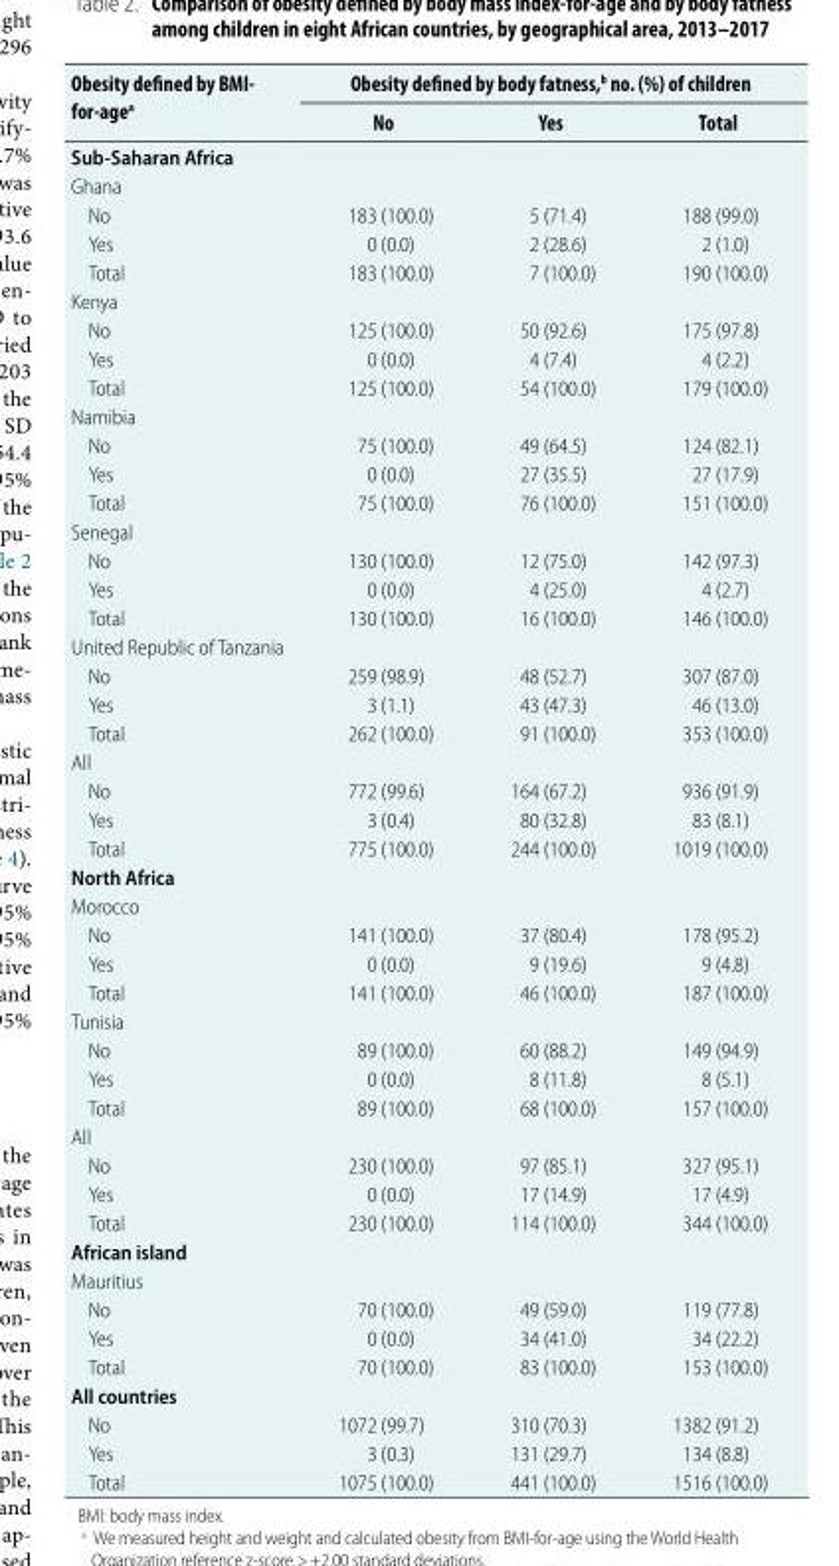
<table><thead><tr><td rowspan="2">Obesity defined by BMI- for-age<sup>a</sup></td><td colspan="3">Obesity defined by body fatness,<sup>b</sup> no. (%) of children</td></tr><tr><td>No</td><td>Yes</td><td>Total</td></tr></thead><tbody><tr><td colspan="4">Sub-Saharan Africa</td></tr><tr><td colspan="4">Ghana</td></tr><tr><td>No</td><td>183 (100.0)</td><td>5 (71.4)</td><td>188 (99.0)</td></tr><tr><td>Yes</td><td>0 (0.0)</td><td>2 (28.6)</td><td>2 (1.0)</td></tr><tr><td>Total</td><td>183 (100.0)</td><td>7 (100.0)</td><td>190 (100.0)</td></tr><tr><td colspan="4">Kenya</td></tr><tr><td>No</td><td>125 (100.0)</td><td>50 (92.6)</td><td>175 (97.8)</td></tr><tr><td>Yes</td><td>0 (0.0)</td><td>4 (7.4)</td><td>4 (2.2)</td></tr><tr><td>Total</td><td>125 (100.0)</td><td>54 (100.0)</td><td>179 (100.0)</td></tr><tr><td colspan="4">Namibia</td></tr><tr><td>No</td><td>75 (100.0)</td><td>49 (64.5)</td><td>124 (82.1)</td></tr><tr><td>Yes</td><td>0 (0.0)</td><td>27 (35.5)</td><td>27 (17.9)</td></tr><tr><td>Total</td><td>75 (100.0)</td><td>76 (100.0)</td><td>151 (100.0)</td></tr><tr><td colspan="4">Senegal</td></tr><tr><td>No</td><td>130 (100.0)</td><td>12 (75.0)</td><td>142 (97.3)</td></tr><tr><td>Yes</td><td>0 (0.0)</td><td>4 (25.0)</td><td>4 (2.7)</td></tr><tr><td>Total</td><td>130 (100.0)</td><td>16 (100.0)</td><td>146 (100.0)</td></tr><tr><td colspan="4">United Republic of Tanzania</td></tr><tr><td>No</td><td>259 (98.9)</td><td>48 (52.7)</td><td>307 (87.0)</td></tr><tr><td>Yes</td><td>3 (1.1)</td><td>43 (47.3)</td><td>46 (13.0)</td></tr><tr><td>Total</td><td>262 (100.0)</td><td>91 (100.0)</td><td>353 (100.0)</td></tr><tr><td colspan="4">All</td></tr><tr><td>No</td><td>772 (99.6)</td><td>164 (67.2)</td><td>936 (91.9)</td></tr><tr><td>Yes</td><td>3 (0.4)</td><td>80 (32.8)</td><td>83 (8.1)</td></tr><tr><td>Total</td><td>775 (100.0)</td><td>244 (100.0)</td><td>1019 (100.0)</td></tr><tr><td colspan="4">North Africa</td></tr><tr><td colspan="4">Morocco</td></tr><tr><td>No</td><td>141 (100.0)</td><td>37 (80.4)</td><td>178 (95.2)</td></tr><tr><td>Yes</td><td>0 (0.0)</td><td>9 (19.6)</td><td>9 (4.8)</td></tr><tr><td>Total</td><td>141 (100.0)</td><td>46 (100.0)</td><td>187 (100.0)</td></tr><tr><td colspan="4">Tunisia</td></tr><tr><td>No</td><td>89 (100.0)</td><td>60 (88.2)</td><td>149 (94.9)</td></tr><tr><td>Yes</td><td>0 (0.0)</td><td>8 (11.8)</td><td>8 (5.1)</td></tr><tr><td>Total</td><td>89 (100.0)</td><td>68 (100.0)</td><td>157 (100.0)</td></tr><tr><td colspan="4">All</td></tr><tr><td>No</td><td>230 (100.0)</td><td>97 (85.1)</td><td>327 (95.1)</td></tr><tr><td>Yes</td><td>0 (0.0)</td><td>17 (14.9)</td><td>17 (4.9)</td></tr><tr><td>Total</td><td>230 (100.0)</td><td>114 (100.0)</td><td>344 (100.0)</td></tr><tr><td colspan="4">African island</td></tr><tr><td colspan="4">Mauritius</td></tr><tr><td>No</td><td>70 (100.0)</td><td>49 (59.0)</td><td>119 (77.8)</td></tr><tr><td>Yes</td><td>0 (0.0)</td><td>34 (41.0)</td><td>34 (22.2)</td></tr><tr><td>Total</td><td>70 (100.0)</td><td>83 (100.0)</td><td>153 (100.0)</td></tr><tr><td colspan="4">All countries</td></tr><tr><td>No</td><td>1072 (99.7)</td><td>310 (70.3)</td><td>1382 (91.2)</td></tr><tr><td>Yes</td><td>3 (0.3)</td><td>131 (29.7)</td><td>134 (8.8)</td></tr><tr><td>Total</td><td>1075 (100.0)</td><td>441 (100.0)</td><td>1516 (100.0)</td></tr></tbody></table>